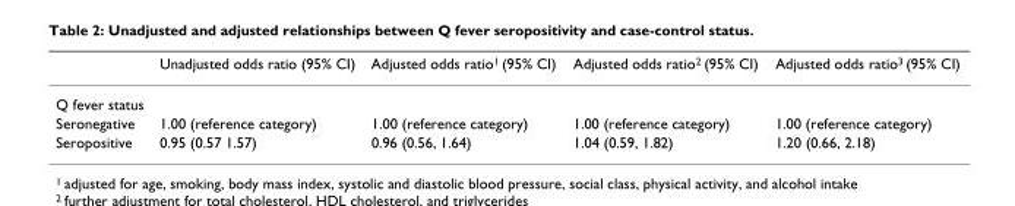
<table><thead><tr><td></td><td>Unadjusted odds ratio (95% CI)</td><td>Adjusted odds ratio<sup>1</sup> (95% CI)</td><td>Adjusted odds ratio<sup>2</sup> (95% CI)</td><td>Adjusted odds ratio<sup>3</sup> (95% CI)</td></tr></thead><tbody><tr><td colspan="5">Q fever status</td></tr><tr><td>Seronegative</td><td>1.00 (reference category)</td><td>1.00 (reference category)</td><td>1.00 (reference category)</td><td>1.00 (reference category)</td></tr><tr><td>Seropositive</td><td>0.95 (0.57 1.57)</td><td>0.96 (0.56, 1.64)</td><td>1.04 (0.59, 1.82)</td><td>1.20 (0.66, 2.18)</td></tr></tbody></table>